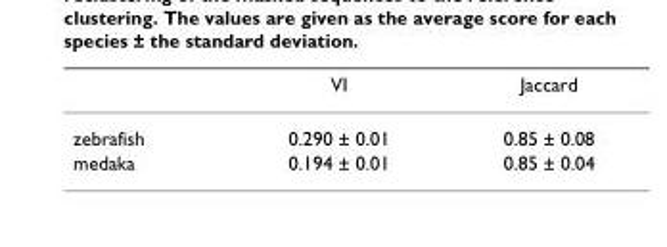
<table><thead><tr><td></td><td>VI</td><td>Jaccard</td></tr></thead><tbody><tr><td>zebrafish</td><td>0.290 ± 0.01</td><td>0.85 ± 0.08</td></tr><tr><td>medaka</td><td>0.194 ± 0.01</td><td>0.85 ± 0.04</td></tr></tbody></table>